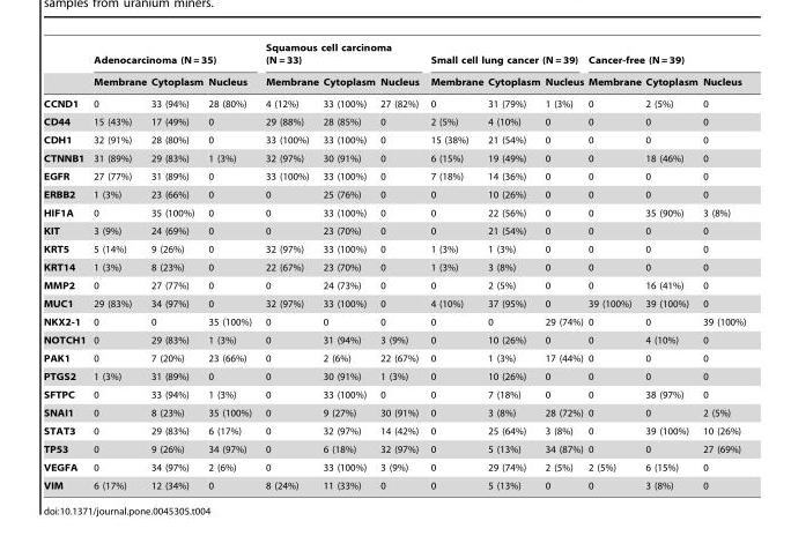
<table><thead><tr><td rowspan="2"></td><td colspan="3">Adenocarcinoma (N = 35)</td><td colspan="3">Squamous cell carcinoma (N = 33)</td><td colspan="3">Small cell lung cancer (N = 39)</td><td colspan="3">Cancer-free (N = 39)</td></tr><tr><td>Membrane</td><td>Cytoplasm</td><td>Nucleus</td><td>Membrane</td><td>Cytoplasm</td><td>Nucleus</td><td>Membrane</td><td>Cytoplasm</td><td>Nucleus</td><td>Membrane</td><td>Cytoplasm</td><td>Nucleus</td></tr></thead><tbody><tr><td>CCND1</td><td>0</td><td>33 (94%)</td><td>28 (80%)</td><td>4 (12%)</td><td>33 (100%)</td><td>27 (82%)</td><td>0</td><td>31 (79%)</td><td>1 (3%)</td><td>0</td><td>2 (5%)</td><td>0</td></tr><tr><td>CD44</td><td>15 (43%)</td><td>17 (49%)</td><td>0</td><td>29 (88%)</td><td>28 (85%)</td><td>0</td><td>2 (5%)</td><td>4 (10%)</td><td>0</td><td>0</td><td>0</td><td>0</td></tr><tr><td>CDH1</td><td>32 (91%)</td><td>28 (80%)</td><td>0</td><td>33 (100%)</td><td>33 (100%)</td><td>0</td><td>15 (38%)</td><td>21 (54%)</td><td>0</td><td>0</td><td>0</td><td>0</td></tr><tr><td>CTNNB1</td><td>31 (89%)</td><td>29 (83%)</td><td>1 (3%)</td><td>32 (97%)</td><td>30 (91%)</td><td>0</td><td>6 (15%)</td><td>19 (49%)</td><td>0</td><td>0</td><td>18 (46%)</td><td>0</td></tr><tr><td>EGFR</td><td>27 (77%)</td><td>31 (89%)</td><td>0</td><td>33 (100%)</td><td>33 (100%)</td><td>0</td><td>7 (18%)</td><td>14 (36%)</td><td>0</td><td>0</td><td>0</td><td>0</td></tr><tr><td>ERBB2</td><td>1 (3%)</td><td>23 (66%)</td><td>0</td><td>0</td><td>25 (76%)</td><td>0</td><td>0</td><td>10 (26%)</td><td>0</td><td>0</td><td>0</td><td>0</td></tr><tr><td>HIF1A</td><td>0</td><td>35 (100%)</td><td>0</td><td>0</td><td>33 (100%)</td><td>0</td><td>0</td><td>22 (56%)</td><td>0</td><td>0</td><td>35 (90%)</td><td>3 (8%)</td></tr><tr><td>KIT</td><td>3 (9%)</td><td>24 (69%)</td><td>0</td><td>0</td><td>23 (70%)</td><td>0</td><td>0</td><td>21 (54%)</td><td>0</td><td>0</td><td>0</td><td>0</td></tr><tr><td>KRT5</td><td>5 (14%)</td><td>9 (26%)</td><td>0</td><td>32 (97%)</td><td>33 (100%)</td><td>0</td><td>1 (3%)</td><td>1 (3%)</td><td>0</td><td>0</td><td>0</td><td>0</td></tr><tr><td>KRT14</td><td>1 (3%)</td><td>8 (23%)</td><td>0</td><td>22 (67%)</td><td>23 (70%)</td><td>0</td><td>1 (3%)</td><td>3 (8%)</td><td>0</td><td>0</td><td>0</td><td>0</td></tr><tr><td>MMP2</td><td>0</td><td>27 (77%)</td><td>0</td><td>0</td><td>24 (73%)</td><td>0</td><td>0</td><td>2 (5%)</td><td>0</td><td>0</td><td>16 (41%)</td><td>0</td></tr><tr><td>MUC1</td><td>29 (83%)</td><td>34 (97%)</td><td>0</td><td>32 (97%)</td><td>33 (100%)</td><td>0</td><td>4 (10%)</td><td>37 (95%)</td><td>0</td><td>39 (100%)</td><td>39 (100%)</td><td>0</td></tr><tr><td>NKX2-1</td><td>0</td><td>0</td><td>35 (100%)</td><td>0</td><td>0</td><td>0</td><td>0</td><td>0</td><td>29 (74%)</td><td>0</td><td>0</td><td>39 (100%)</td></tr><tr><td>NOTCH1</td><td>0</td><td>29 (83%)</td><td>1 (3%)</td><td>0</td><td>31 (94%)</td><td>3 (9%)</td><td>0</td><td>10 (26%)</td><td>0</td><td>0</td><td>4 (10%)</td><td>0</td></tr><tr><td>PAK1</td><td>0</td><td>7 (20%)</td><td>23 (66%)</td><td>0</td><td>2 (6%)</td><td>22 (67%)</td><td>0</td><td>1 (3%)</td><td>17 (44%)</td><td>0</td><td>0</td><td>0</td></tr><tr><td>PTGS2</td><td>1 (3%)</td><td>31 (89%)</td><td>0</td><td>0</td><td>30 (91%)</td><td>1 (3%)</td><td>0</td><td>10 (26%)</td><td>0</td><td>0</td><td>0</td><td>0</td></tr><tr><td>SFTPC</td><td>0</td><td>33 (94%)</td><td>1 (3%)</td><td>0</td><td>33 (100%)</td><td>0</td><td>0</td><td>7 (18%)</td><td>0</td><td>0</td><td>38 (97%)</td><td>0</td></tr><tr><td>SNAI1</td><td>0</td><td>8 (23%)</td><td>35 (100%)</td><td>0</td><td>9 (27%)</td><td>30 (91%)</td><td>0</td><td>3 (8%)</td><td>28 (72%)</td><td>0</td><td>0</td><td>2 (5%)</td></tr><tr><td>STAT3</td><td>0</td><td>29 (83%)</td><td>6 (17%)</td><td>0</td><td>32 (97%)</td><td>14 (42%)</td><td>0</td><td>25 (64%)</td><td>3 (8%)</td><td>0</td><td>39 (100%)</td><td>10 (26%)</td></tr><tr><td>TP53</td><td>0</td><td>9 (26%)</td><td>34 (97%)</td><td>0</td><td>6 (18%)</td><td>32 (97%)</td><td>0</td><td>5 (13%)</td><td>34 (87%)</td><td>0</td><td>0</td><td>27 (69%)</td></tr><tr><td>VEGFA</td><td>0</td><td>34 (97%)</td><td>2 (6%)</td><td>0</td><td>33 (100%)</td><td>3 (9%)</td><td>0</td><td>29 (74%)</td><td>2 (5%)</td><td>2 (5%)</td><td>6 (15%)</td><td>0</td></tr><tr><td>VIM</td><td>6 (17%)</td><td>12 (34%)</td><td>0</td><td>8 (24%)</td><td>11 (33%)</td><td>0</td><td>0</td><td>5 (13%)</td><td>0</td><td>0</td><td>3 (8%)</td><td>0</td></tr></tbody></table>